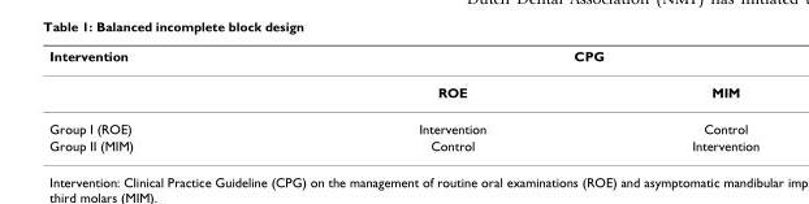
<table><thead><tr><td rowspan="2">Intervention</td><td colspan="2">CPG</td></tr><tr><td>ROE</td><td>MIM</td></tr></thead><tbody><tr><td>Group I (ROE)</td><td>Intervention</td><td>Control</td></tr><tr><td>Group II (MIM)</td><td>Control</td><td>Intervention</td></tr></tbody></table>